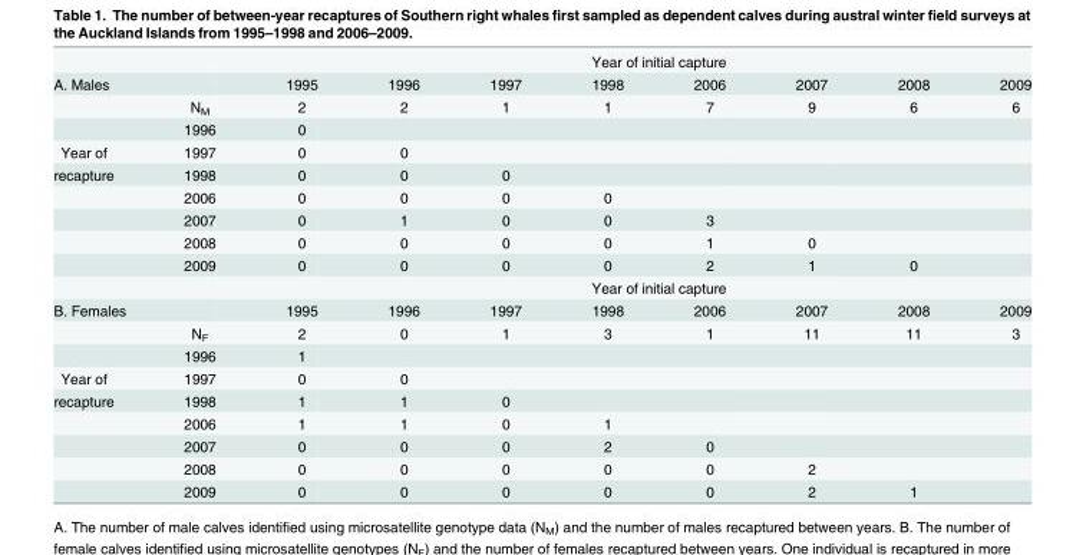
<table><thead><tr><td rowspan="2">A. Males</td><td rowspan="2"></td><td colspan="8">Year of initial capture</td></tr><tr><td>1995</td><td>1996</td><td>1997</td><td>1998</td><td>2006</td><td>2007</td><td>2008</td><td>2009</td></tr></thead><tbody><tr><td></td><td>N<sub>M</sub></td><td>2</td><td>2</td><td>1</td><td>1</td><td>7</td><td>9</td><td>6</td><td>6</td></tr><tr><td></td><td>1996</td><td>0</td><td></td><td></td><td></td><td></td><td></td><td></td><td></td></tr><tr><td>Year of</td><td>1997</td><td>0</td><td>0</td><td></td><td></td><td></td><td></td><td></td><td></td></tr><tr><td rowspan="6">recapture</td><td>1998</td><td>0</td><td>0</td><td>0</td><td></td><td></td><td></td><td></td><td></td></tr><tr><td>2006</td><td>0</td><td>0</td><td>0</td><td>0</td><td></td><td></td><td></td><td></td></tr><tr><td>2007</td><td>0</td><td>1</td><td>0</td><td>0</td><td>3</td><td></td><td></td><td></td></tr><tr><td>2008</td><td>0</td><td>0</td><td>0</td><td>0</td><td>1</td><td>0</td><td></td><td></td></tr><tr><td>2009</td><td>0</td><td>0</td><td>0</td><td>0</td><td>2</td><td>1</td><td>0</td><td></td></tr><tr><td></td><td colspan="8">Year of initial capture</td></tr><tr><td colspan="2">B. Females</td><td>1995</td><td>1996</td><td>1997</td><td>1998</td><td>2006</td><td>2007</td><td>2008</td><td>2009</td></tr><tr><td></td><td>N<sub>F</sub></td><td>2</td><td>0</td><td>1</td><td>3</td><td>1</td><td>11</td><td>11</td><td>3</td></tr><tr><td></td><td>1996</td><td>1</td><td></td><td></td><td></td><td></td><td></td><td></td><td></td></tr><tr><td>Year of</td><td>1997</td><td>0</td><td>0</td><td></td><td></td><td></td><td></td><td></td><td></td></tr><tr><td rowspan="5">recapture</td><td>1998</td><td>1</td><td>1</td><td>0</td><td></td><td></td><td></td><td></td><td></td></tr><tr><td>2006</td><td>1</td><td>1</td><td>0</td><td>1</td><td></td><td></td><td></td><td></td></tr><tr><td>2007</td><td>0</td><td>0</td><td>0</td><td>2</td><td>0</td><td></td><td></td><td></td></tr><tr><td>2008</td><td>0</td><td>0</td><td>0</td><td>0</td><td>0</td><td>2</td><td></td><td></td></tr><tr><td>2009</td><td>0</td><td>0</td><td>0</td><td>0</td><td>0</td><td>2</td><td>1</td><td></td></tr></tbody></table>